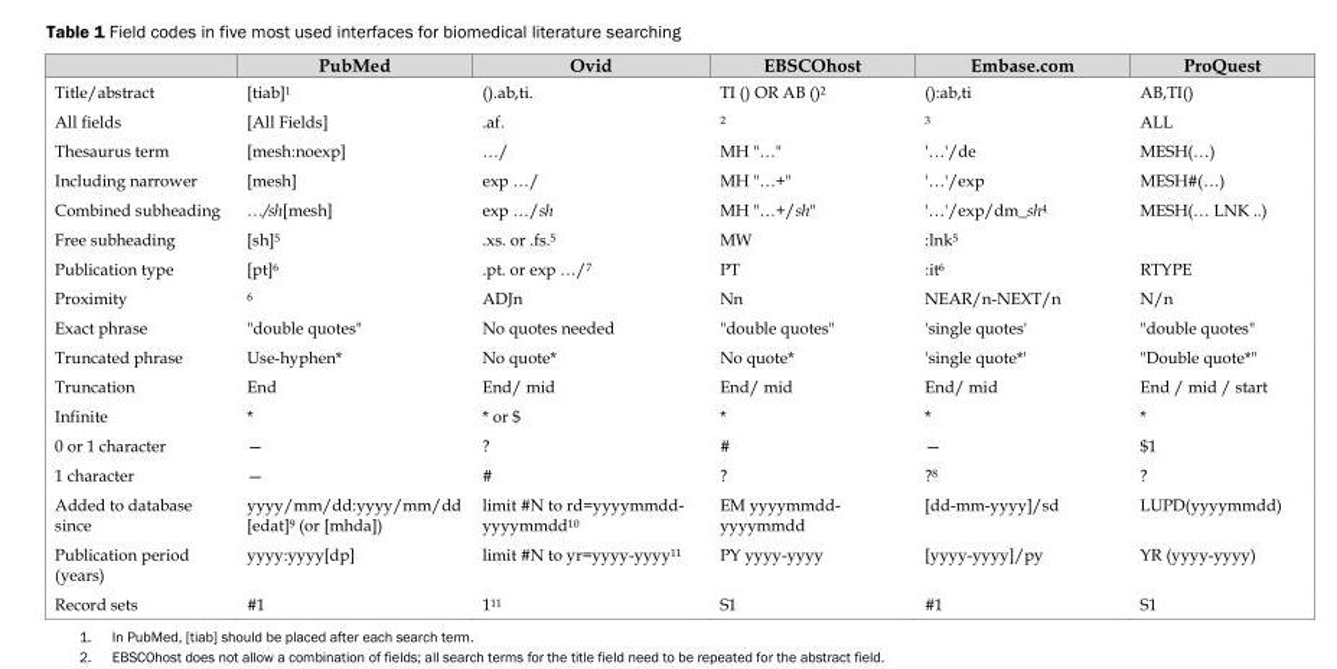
<table><thead><tr><td></td><td>PubMed</td><td>Ovid</td><td>EBSCOhost</td><td>Embase.com</td><td>ProQuest</td></tr></thead><tbody><tr><td>Title/abstract</td><td>[tiab]<sup>1</sup></td><td>().ab,ti.</td><td>TI () OR AB ()<sup>2</sup></td><td>():ab,ti</td><td>AB,TI()</td></tr><tr><td>All fields</td><td>[All Fields]</td><td>.af.</td><td>2</td><td>3</td><td>ALL</td></tr><tr><td>Thesaurus term</td><td>[mesh:noexp]</td><td>…/</td><td>MH &quot;…&quot;</td><td>&#x27;…&#x27;/de</td><td>MESH(…)</td></tr><tr><td>Including narrower</td><td>[mesh]</td><td>exp …/</td><td>MH &quot;…+&quot;</td><td>&#x27;…&#x27;/exp</td><td>MESH#(…)</td></tr><tr><td>Combined subheading</td><td>…/sh[mesh]</td><td>exp …/sh</td><td>MH &quot;…+/sh&quot;</td><td>&#x27;…&#x27;/exp/dm_sh<sup>4</sup></td><td>MESH(… LNK ..)</td></tr><tr><td>Free subheading</td><td>[sh]<sup>5</sup></td><td>.xs. or .fs.<sup>5</sup></td><td>MW</td><td>:lnk<sup>5</sup></td><td></td></tr><tr><td>Publication type</td><td>[pt]<sup>6</sup></td><td>.pt. or exp …/7</td><td>PT</td><td>:it<sup>6</sup></td><td>RTYPE</td></tr><tr><td>Proximity</td><td>6</td><td>ADJn</td><td>Nn</td><td>NEAR/n-NEXT/n</td><td>N/n</td></tr><tr><td>Exact phrase</td><td>&quot;double quotes&quot;</td><td>No quotes needed</td><td>&quot;double quotes&quot;</td><td>&#x27;single quotes&#x27;</td><td>&quot;double quotes&quot;</td></tr><tr><td>Truncated phrase</td><td>Use-hyphen*</td><td>No quote*</td><td>No quote*</td><td>&#x27;single quote*&#x27;</td><td>&quot;Double quote*&quot;</td></tr><tr><td>Truncation</td><td>End</td><td>End/ mid</td><td>End/ mid</td><td>End/ mid</td><td>End / mid / start</td></tr><tr><td>Infinite</td><td>*</td><td>* or $</td><td>*</td><td>*</td><td>*</td></tr><tr><td>0 or 1 character</td><td>—</td><td>?</td><td>#</td><td>—</td><td>$1</td></tr><tr><td>1 character</td><td>—</td><td>#</td><td>?</td><td>?<sup>8</sup></td><td>?</td></tr><tr><td>Added to database since</td><td>yyyy/mm/dd:yyyy/mm/dd [edat]<sup>9</sup> (or [mhda])</td><td>limit #N to rd=yyyymmdd- yyyymmdd<sup>10</sup></td><td>EM yyyymmdd- yyyymmdd</td><td>[dd-mm-yyyy]/sd</td><td>LUPD(yyyymmdd)</td></tr><tr><td>Publication period (years)</td><td>yyyy:yyyy[dp]</td><td>limit #N to yr=yyyy-yyyy<sup>11</sup></td><td>PY yyyy-yyyy</td><td>[yyyy-yyyy]/py</td><td>YR (yyyy-yyyy)</td></tr><tr><td>Record sets</td><td>#1</td><td>1<sup>11</sup></td><td>S1</td><td>#1</td><td>S1</td></tr></tbody></table>